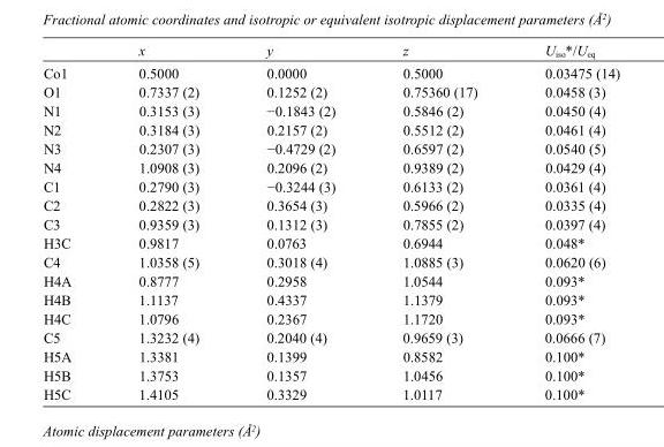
<table><thead><tr><td></td><td>x</td><td>y</td><td>z</td><td>U<sub>iso</sub>*/U<sub>eq</sub></td></tr></thead><tbody><tr><td>Co1</td><td>0.5000</td><td>0.0000</td><td>0.5000</td><td>0.03475 (14)</td></tr><tr><td>O1</td><td>0.7337 (2)</td><td>0.1252 (2)</td><td>0.75360 (17)</td><td>0.0458 (3)</td></tr><tr><td>N1</td><td>0.3153 (3)</td><td>−0.1843 (2)</td><td>0.5846 (2)</td><td>0.0450 (4)</td></tr><tr><td>N2</td><td>0.3184 (3)</td><td>0.2157 (2)</td><td>0.5512 (2)</td><td>0.0461 (4)</td></tr><tr><td>N3</td><td>0.2307 (3)</td><td>−0.4729 (2)</td><td>0.6597 (2)</td><td>0.0540 (5)</td></tr><tr><td>N4</td><td>1.0908 (3)</td><td>0.2096 (2)</td><td>0.9389 (2)</td><td>0.0429 (4)</td></tr><tr><td>C1</td><td>0.2790 (3)</td><td>−0.3244 (3)</td><td>0.6133 (2)</td><td>0.0361 (4)</td></tr><tr><td>C2</td><td>0.2822 (3)</td><td>0.3654 (3)</td><td>0.5966 (2)</td><td>0.0335 (4)</td></tr><tr><td>C3</td><td>0.9359 (3)</td><td>0.1312 (3)</td><td>0.7855 (2)</td><td>0.0397 (4)</td></tr><tr><td>H3C</td><td>0.9817</td><td>0.0763</td><td>0.6944</td><td>0.048*</td></tr><tr><td>C4</td><td>1.0358 (5)</td><td>0.3018 (4)</td><td>1.0885 (3)</td><td>0.0620 (6)</td></tr><tr><td>H4A</td><td>0.8777</td><td>0.2958</td><td>1.0544</td><td>0.093*</td></tr><tr><td>H4B</td><td>1.1137</td><td>0.4337</td><td>1.1379</td><td>0.093*</td></tr><tr><td>H4C</td><td>1.0796</td><td>0.2367</td><td>1.1720</td><td>0.093*</td></tr><tr><td>C5</td><td>1.3232 (4)</td><td>0.2040 (4)</td><td>0.9659 (3)</td><td>0.0666 (7)</td></tr><tr><td>H5A</td><td>1.3381</td><td>0.1399</td><td>0.8582</td><td>0.100*</td></tr><tr><td>H5B</td><td>1.3753</td><td>0.1357</td><td>1.0456</td><td>0.100*</td></tr><tr><td>H5C</td><td>1.4105</td><td>0.3329</td><td>1.0117</td><td>0.100*</td></tr></tbody></table>